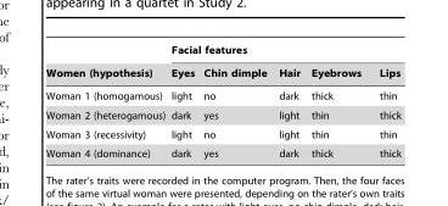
<table><thead><tr><td rowspan="2">Women (hypothesis)</td><td colspan="5">Facial features</td></tr><tr><td>Eyes</td><td>Chin dimple</td><td>Hair</td><td>Eyebrows</td><td>Lips</td></tr></thead><tbody><tr><td>Woman 1 (homogamous)</td><td>light</td><td>no</td><td>dark</td><td>thick</td><td>thin</td></tr><tr><td>Woman 2 (heterogamous)</td><td>dark</td><td>yes</td><td>light</td><td>thin</td><td>thick</td></tr><tr><td>Woman 3 (recessivity)</td><td>light</td><td>no</td><td>light</td><td>thin</td><td>thin</td></tr><tr><td>Woman 4 (dominance)</td><td>dark</td><td>yes</td><td>dark</td><td>thick</td><td>thick</td></tr></tbody></table>